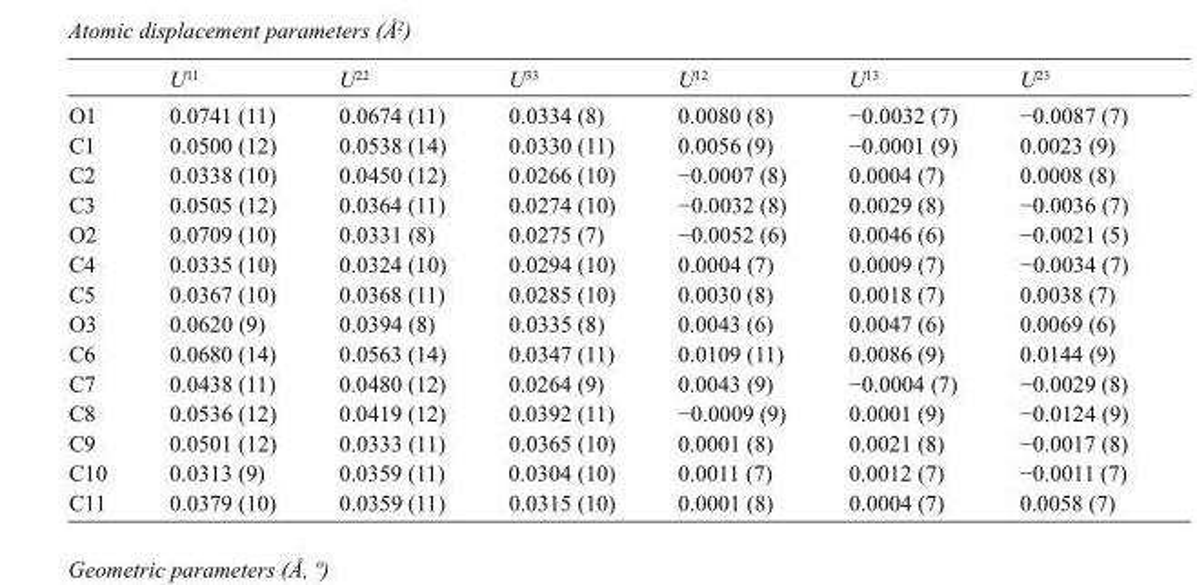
<table><thead><tr><td></td><td>U<sup>11</sup></td><td>U<sup>22</sup></td><td>U<sup>33</sup></td><td>U<sup>12</sup></td><td>U<sup>13</sup></td><td>U<sup>23</sup></td></tr></thead><tbody><tr><td>O1</td><td>0.0741 (11)</td><td>0.0674 (11)</td><td>0.0334 (8)</td><td>0.0080 (8)</td><td>−0.0032 (7)</td><td>−0.0087 (7)</td></tr><tr><td>C1</td><td>0.0500 (12)</td><td>0.0538 (14)</td><td>0.0330 (11)</td><td>0.0056 (9)</td><td>−0.0001 (9)</td><td>0.0023 (9)</td></tr><tr><td>C2</td><td>0.0338 (10)</td><td>0.0450 (12)</td><td>0.0266 (10)</td><td>−0.0007 (8)</td><td>0.0004 (7)</td><td>0.0008 (8)</td></tr><tr><td>C3</td><td>0.0505 (12)</td><td>0.0364 (11)</td><td>0.0274 (10)</td><td>−0.0032 (8)</td><td>0.0029 (8)</td><td>−0.0036 (7)</td></tr><tr><td>O2</td><td>0.0709 (10)</td><td>0.0331 (8)</td><td>0.0275 (7)</td><td>−0.0052 (6)</td><td>0.0046 (6)</td><td>−0.0021 (5)</td></tr><tr><td>C4</td><td>0.0335 (10)</td><td>0.0324 (10)</td><td>0.0294 (10)</td><td>0.0004 (7)</td><td>0.0009 (7)</td><td>−0.0034 (7)</td></tr><tr><td>C5</td><td>0.0367 (10)</td><td>0.0368 (11)</td><td>0.0285 (10)</td><td>0.0030 (8)</td><td>0.0018 (7)</td><td>0.0038 (7)</td></tr><tr><td>O3</td><td>0.0620 (9)</td><td>0.0394 (8)</td><td>0.0335 (8)</td><td>0.0043 (6)</td><td>0.0047 (6)</td><td>0.0069 (6)</td></tr><tr><td>C6</td><td>0.0680 (14)</td><td>0.0563 (14)</td><td>0.0347 (11)</td><td>0.0109 (11)</td><td>0.0086 (9)</td><td>0.0144 (9)</td></tr><tr><td>C7</td><td>0.0438 (11)</td><td>0.0480 (12)</td><td>0.0264 (9)</td><td>0.0043 (9)</td><td>−0.0004 (7)</td><td>−0.0029 (8)</td></tr><tr><td>C8</td><td>0.0536 (12)</td><td>0.0419 (12)</td><td>0.0392 (11)</td><td>−0.0009 (9)</td><td>0.0001 (9)</td><td>−0.0124 (9)</td></tr><tr><td>C9</td><td>0.0501 (12)</td><td>0.0333 (11)</td><td>0.0365 (10)</td><td>0.0001 (8)</td><td>0.0021 (8)</td><td>−0.0017 (8)</td></tr><tr><td>C10</td><td>0.0313 (9)</td><td>0.0359 (11)</td><td>0.0304 (10)</td><td>0.0011 (7)</td><td>0.0012 (7)</td><td>−0.0011 (7)</td></tr><tr><td>C11</td><td>0.0379 (10)</td><td>0.0359 (11)</td><td>0.0315 (10)</td><td>0.0001 (8)</td><td>0.0004 (7)</td><td>0.0058 (7)</td></tr></tbody></table>